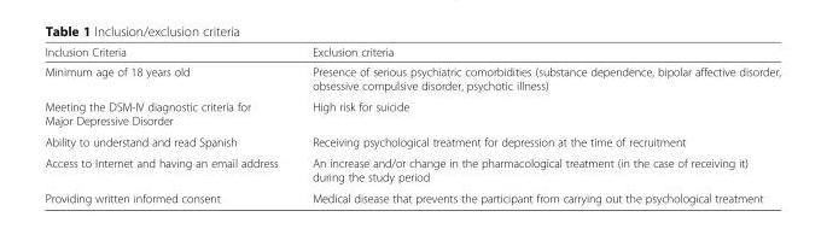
<table><thead><tr><td>Inclusion Criteria</td><td>Exclusion criteria</td></tr></thead><tbody><tr><td>Minimum age of 18 years old</td><td>Presence of serious psychiatric comorbidities (substance dependence, bipolar affective disorder, obsessive compulsive disorder, psychotic illness)</td></tr><tr><td>Meeting the DSM-IV diagnostic criteria for Major Depressive Disorder</td><td>High risk for suicide</td></tr><tr><td>Ability to understand and read Spanish</td><td>Receiving psychological treatment for depression at the time of recruitment</td></tr><tr><td>Access to Internet and having an email address</td><td>An increase and/or change in the pharmacological treatment (in the case of receiving it) during the study period</td></tr><tr><td>Providing written informed consent</td><td>Medical disease that prevents the participant from carrying out the psychological treatment</td></tr></tbody></table>